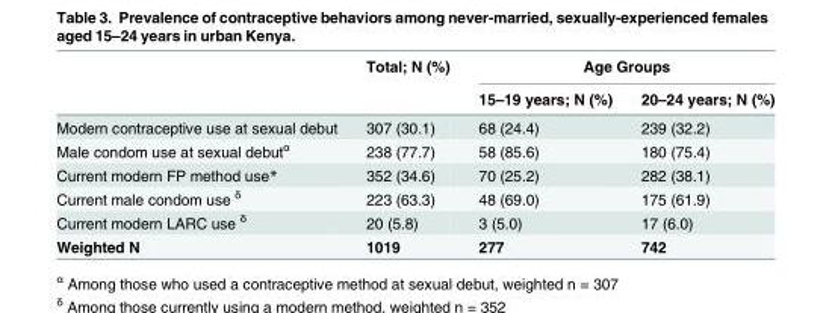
<table><thead><tr><td rowspan="2"></td><td rowspan="2">Total; N (%)</td><td colspan="2">Age Groups</td></tr><tr><td>15–19 years; N (%)</td><td>20–24 years; N (%)</td></tr></thead><tbody><tr><td>Modern contraceptive use at sexual debut</td><td>307 (30.1)</td><td>68 (24.4)</td><td>239 (32.2)</td></tr><tr><td>Male condom use at sexual debut<sup>α</sup></td><td>238 (77.7)</td><td>58 (85.6)</td><td>180 (75.4)</td></tr><tr><td>Current modern FP method use*</td><td>352 (34.6)</td><td>70 (25.2)</td><td>282 (38.1)</td></tr><tr><td>Current male condom use <sup>δ</sup></td><td>223 (63.3)</td><td>48 (69.0)</td><td>175 (61.9)</td></tr><tr><td>Current modern LARC use <sup>δ</sup></td><td>20 (5.8)</td><td>3 (5.0)</td><td>17 (6.0)</td></tr><tr><td>Weighted N</td><td>1019</td><td>277</td><td>742</td></tr></tbody></table>